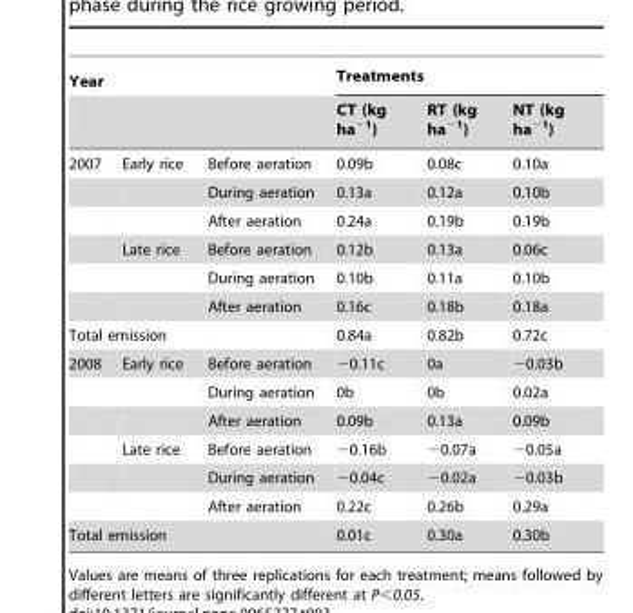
<table><thead><tr><td colspan="3">Year</td><td colspan="3">Treatments</td></tr><tr><td></td><td></td><td></td><td>CT (kg ha<sup>−1</sup>)</td><td>RT (kg ha<sup>−1</sup>)</td><td>NT (kg ha<sup>−1</sup>)</td></tr></thead><tbody><tr><td rowspan="6">2007</td><td>Early rice</td><td>Before aeration</td><td>0.09b</td><td>0.08c</td><td>0.10a</td></tr><tr><td></td><td>During aeration</td><td>0.13a</td><td>0.12a</td><td>0.10b</td></tr><tr><td></td><td>After aeration</td><td>0.24a</td><td>0.19b</td><td>0.19b</td></tr><tr><td>Late rice</td><td>Before aeration</td><td>0.12b</td><td>0.13a</td><td>0.06c</td></tr><tr><td></td><td>During aeration</td><td>0.10b</td><td>0.11a</td><td>0.10b</td></tr><tr><td></td><td>After aeration</td><td>0.16c</td><td>0.18b</td><td>0.18a</td></tr><tr><td colspan="3">Total emission</td><td>0.84a</td><td>0.82b</td><td>0.72c</td></tr><tr><td rowspan="6">2008</td><td>Early rice</td><td>Before aeration</td><td>−0.11c</td><td>0a</td><td>−0.03b</td></tr><tr><td></td><td>During aeration</td><td>0b</td><td>0b</td><td>0.02a</td></tr><tr><td></td><td>After aeration</td><td>0.09b</td><td>0.13a</td><td>0.09b</td></tr><tr><td>Late rice</td><td>Before aeration</td><td>−0.16b</td><td>−0.07a</td><td>−0.05a</td></tr><tr><td></td><td>During aeration</td><td>−0.04c</td><td>−0.02a</td><td>−0.03b</td></tr><tr><td></td><td>After aeration</td><td>0.22c</td><td>0.26b</td><td>0.29a</td></tr><tr><td colspan="3">Total emission</td><td>0.01c</td><td>0.30a</td><td>0.30b</td></tr></tbody></table>